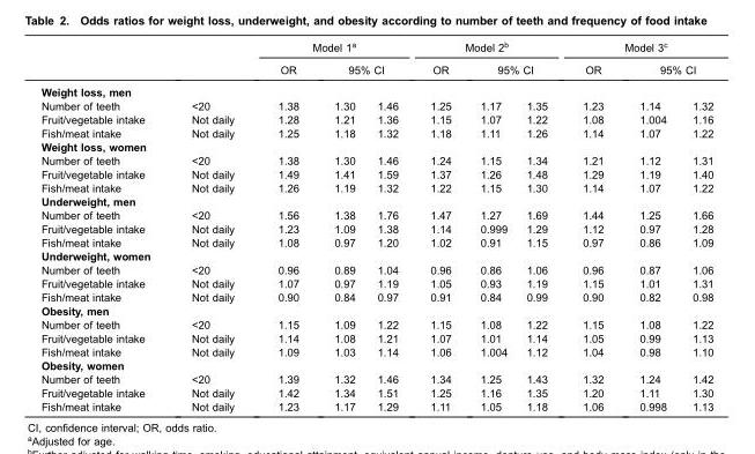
<table><thead><tr><td rowspan="3">Weight loss, men</td><td rowspan="3"></td><td colspan="3">Model 1<sup>a</sup></td><td colspan="3">Model 2<sup>b</sup></td><td colspan="3">Model 3<sup>c</sup></td></tr><tr><td rowspan="2">OR</td><td colspan="2">95% CI</td><td rowspan="2">OR</td><td colspan="2">95% CI</td><td rowspan="2">OR</td><td colspan="2">95% CI</td></tr><tr><td></td><td></td><td></td><td></td><td></td><td></td></tr></thead><tbody><tr><td>Number of teeth</td><td>&lt;20</td><td>1.38</td><td>1.30</td><td>1.46</td><td>1.25</td><td>1.17</td><td>1.35</td><td>1.23</td><td>1.14</td><td>1.32</td></tr><tr><td>Fruit/vegetable intake</td><td>Not daily</td><td>1.28</td><td>1.21</td><td>1.36</td><td>1.15</td><td>1.07</td><td>1.22</td><td>1.08</td><td>1.004</td><td>1.16</td></tr><tr><td>Fish/meat intake</td><td>Not daily</td><td>1.25</td><td>1.18</td><td>1.32</td><td>1.18</td><td>1.11</td><td>1.26</td><td>1.14</td><td>1.07</td><td>1.22</td></tr><tr><td colspan="11">Weight loss, women</td></tr><tr><td>Number of teeth</td><td>&lt;20</td><td>1.38</td><td>1.30</td><td>1.46</td><td>1.24</td><td>1.15</td><td>1.34</td><td>1.21</td><td>1.12</td><td>1.31</td></tr><tr><td>Fruit/vegetable intake</td><td>Not daily</td><td>1.49</td><td>1.41</td><td>1.59</td><td>1.37</td><td>1.26</td><td>1.48</td><td>1.29</td><td>1.19</td><td>1.40</td></tr><tr><td>Fish/meat intake</td><td>Not daily</td><td>1.26</td><td>1.19</td><td>1.32</td><td>1.22</td><td>1.15</td><td>1.30</td><td>1.14</td><td>1.07</td><td>1.22</td></tr><tr><td colspan="11">Underweight, men</td></tr><tr><td>Number of teeth</td><td>&lt;20</td><td>1.56</td><td>1.38</td><td>1.76</td><td>1.47</td><td>1.27</td><td>1.69</td><td>1.44</td><td>1.25</td><td>1.66</td></tr><tr><td>Fruit/vegetable intake</td><td>Not daily</td><td>1.23</td><td>1.09</td><td>1.38</td><td>1.14</td><td>0.999</td><td>1.29</td><td>1.12</td><td>0.97</td><td>1.28</td></tr><tr><td>Fish/meat intake</td><td>Not daily</td><td>1.08</td><td>0.97</td><td>1.20</td><td>1.02</td><td>0.91</td><td>1.15</td><td>0.97</td><td>0.86</td><td>1.09</td></tr><tr><td colspan="11">Underweight, women</td></tr><tr><td>Number of teeth</td><td>&lt;20</td><td>0.96</td><td>0.89</td><td>1.04</td><td>0.96</td><td>0.86</td><td>1.06</td><td>0.96</td><td>0.87</td><td>1.06</td></tr><tr><td>Fruit/vegetable intake</td><td>Not daily</td><td>1.07</td><td>0.97</td><td>1.19</td><td>1.05</td><td>0.93</td><td>1.19</td><td>1.15</td><td>1.01</td><td>1.31</td></tr><tr><td>Fish/meat intake</td><td>Not daily</td><td>0.90</td><td>0.84</td><td>0.97</td><td>0.91</td><td>0.84</td><td>0.99</td><td>0.90</td><td>0.82</td><td>0.98</td></tr><tr><td colspan="11">Obesity, men</td></tr><tr><td>Number of teeth</td><td>&lt;20</td><td>1.15</td><td>1.09</td><td>1.22</td><td>1.15</td><td>1.08</td><td>1.22</td><td>1.15</td><td>1.08</td><td>1.22</td></tr><tr><td>Fruit/vegetable intake</td><td>Not daily</td><td>1.14</td><td>1.08</td><td>1.21</td><td>1.07</td><td>1.01</td><td>1.14</td><td>1.05</td><td>0.99</td><td>1.13</td></tr><tr><td>Fish/meat intake</td><td>Not daily</td><td>1.09</td><td>1.03</td><td>1.14</td><td>1.06</td><td>1.004</td><td>1.12</td><td>1.04</td><td>0.98</td><td>1.10</td></tr><tr><td colspan="11">Obesity, women</td></tr><tr><td>Number of teeth</td><td>&lt;20</td><td>1.39</td><td>1.32</td><td>1.46</td><td>1.34</td><td>1.25</td><td>1.43</td><td>1.32</td><td>1.24</td><td>1.42</td></tr><tr><td>Fruit/vegetable intake</td><td>Not daily</td><td>1.42</td><td>1.34</td><td>1.51</td><td>1.25</td><td>1.16</td><td>1.35</td><td>1.20</td><td>1.11</td><td>1.30</td></tr><tr><td>Fish/meat intake</td><td>Not daily</td><td>1.23</td><td>1.17</td><td>1.29</td><td>1.11</td><td>1.05</td><td>1.18</td><td>1.06</td><td>0.998</td><td>1.13</td></tr></tbody></table>